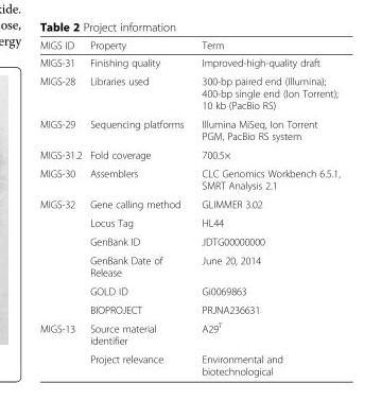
<table><thead><tr><td>MIGS ID</td><td>Property</td><td>Term</td></tr></thead><tbody><tr><td>MIGS-31</td><td>Finishing quality</td><td>Improved-high-quality draft</td></tr><tr><td>MIGS-28</td><td>Libraries used</td><td>300-bp paired end (Illumina); 400-bp single end (Ion Torrent); 10 kb (PacBio RS)</td></tr><tr><td>MIGS-29</td><td>Sequencing platforms</td><td>Illumina MiSeq, Ion Torrent PGM, PacBio RS system</td></tr><tr><td>MIGS-31.2</td><td>Fold coverage</td><td>700.5×</td></tr><tr><td>MIGS-30</td><td>Assemblers</td><td>CLC Genomics Workbench 6.5.1, SMRT Analysis 2.1</td></tr><tr><td rowspan="6">MIGS-32</td><td>Gene calling method</td><td>GLIMMER 3.02</td></tr><tr><td>Locus Tag</td><td>HL44</td></tr><tr><td>GenBank ID</td><td>JDTG00000000</td></tr><tr><td>GenBank Date of Release</td><td>June 20, 2014</td></tr><tr><td>GOLD ID</td><td>Gi0069863</td></tr><tr><td>BIOPROJECT</td><td>PRJNA236631</td></tr><tr><td rowspan="2">MIGS-13</td><td>Source material identifier</td><td>A29<sup>T</sup></td></tr><tr><td>Project relevance</td><td>Environmental and biotechnological</td></tr></tbody></table>